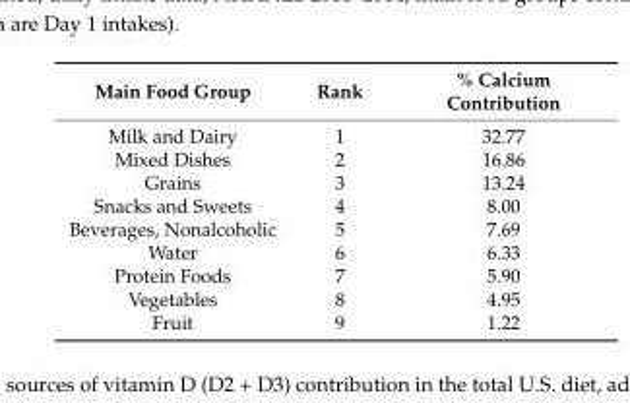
<table><thead><tr><td>Main Food Group</td><td>Rank</td><td>% Calcium Contribution</td></tr></thead><tbody><tr><td>Milk and Dairy</td><td>1</td><td>32.77</td></tr><tr><td>Mixed Dishes</td><td>2</td><td>16.86</td></tr><tr><td>Grains</td><td>3</td><td>13.24</td></tr><tr><td>Snacks and Sweets</td><td>4</td><td>8.00</td></tr><tr><td>Beverages, Nonalcoholic</td><td>5</td><td>7.69</td></tr><tr><td>Water</td><td>6</td><td>6.33</td></tr><tr><td>Protein Foods</td><td>7</td><td>5.90</td></tr><tr><td>Vegetables</td><td>8</td><td>4.95</td></tr><tr><td>Fruit</td><td>9</td><td>1.22</td></tr></tbody></table>